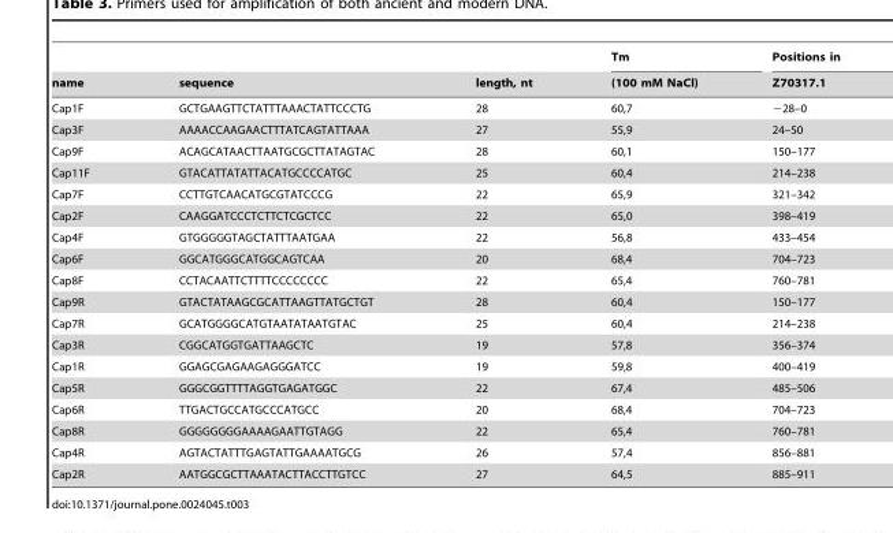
<table><thead><tr><td rowspan="2">name</td><td rowspan="2">sequence</td><td rowspan="2">length, nt</td><td rowspan="2">Tm (100 mM NaCl)</td><td rowspan="2">Positions in Z70317.1</td></tr><tr></tr></thead><tbody><tr><td>Cap1F</td><td>GCTGAAGTTCTATTTAAACTATTCCCTG</td><td>28</td><td>60,7</td><td>−28–0</td></tr><tr><td>Cap3F</td><td>AAAACCAAGAACTTTATCAGTATTAAA</td><td>27</td><td>55,9</td><td>24–50</td></tr><tr><td>Cap9F</td><td>ACAGCATAACTTAATGCGCTTATAGTAC</td><td>28</td><td>60,1</td><td>150–177</td></tr><tr><td>Cap11F</td><td>GTACATTATATTACATGCCCCATGC</td><td>25</td><td>60,4</td><td>214–238</td></tr><tr><td>Cap7F</td><td>CCTTGTCAACATGCGTATCCCG</td><td>22</td><td>65,9</td><td>321–342</td></tr><tr><td>Cap2F</td><td>CAAGGATCCCTCTTCTCGCTCC</td><td>22</td><td>65,0</td><td>398–419</td></tr><tr><td>Cap4F</td><td>GTGGGGGTAGCTATTTAATGAA</td><td>22</td><td>56,8</td><td>433–454</td></tr><tr><td>Cap6F</td><td>GGCATGGGCATGGCAGTCAA</td><td>20</td><td>68,4</td><td>704–723</td></tr><tr><td>Cap8F</td><td>CCTACAATTCTTTTCCCCCCCC</td><td>22</td><td>65,4</td><td>760–781</td></tr><tr><td>Cap9R</td><td>GTACTATAAGCGCATTAAGTTATGCTGT</td><td>28</td><td>60,4</td><td>150–177</td></tr><tr><td>Cap7R</td><td>GCATGGGGCATGTAATATAATGTAC</td><td>25</td><td>60,4</td><td>214–238</td></tr><tr><td>Cap3R</td><td>CGGCATGGTGATTAAGCTC</td><td>19</td><td>57,8</td><td>356–374</td></tr><tr><td>Cap1R</td><td>GGAGCGAGAAGAGGGATCC</td><td>19</td><td>59,8</td><td>400–419</td></tr><tr><td>Cap5R</td><td>GGGCGGTTTTAGGTGAGATGGC</td><td>22</td><td>67,4</td><td>485–506</td></tr><tr><td>Cap6R</td><td>TTGACTGCCATGCCCATGCC</td><td>20</td><td>68,4</td><td>704–723</td></tr><tr><td>Cap8R</td><td>GGGGGGGGAAAAGAATTGTAGG</td><td>22</td><td>65,4</td><td>760–781</td></tr><tr><td>Cap4R</td><td>AGTACTATTTGAGTATTGAAAATGCG</td><td>26</td><td>57,4</td><td>856–881</td></tr><tr><td>Cap2R</td><td>AATGGCGCTTAAATACTTACCTTGTCC</td><td>27</td><td>64,5</td><td>885–911</td></tr></tbody></table>